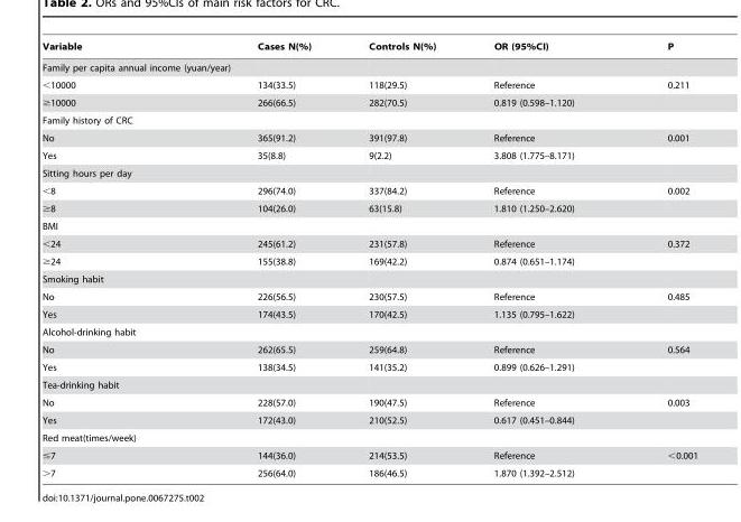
<table><thead><tr><td>Variable</td><td>Cases N(%)</td><td>Controls N(%)</td><td>OR (95%CI)</td><td>P</td></tr></thead><tbody><tr><td colspan="5">Family per capita annual income (yuan/year)</td></tr><tr><td>&lt;10000</td><td>134(33.5)</td><td>118(29.5)</td><td>Reference</td><td>0.211</td></tr><tr><td>≥10000</td><td>266(66.5)</td><td>282(70.5)</td><td>0.819 (0.598–1.120)</td><td></td></tr><tr><td colspan="5">Family history of CRC</td></tr><tr><td>No</td><td>365(91.2)</td><td>391(97.8)</td><td>Reference</td><td>0.001</td></tr><tr><td>Yes</td><td>35(8.8)</td><td>9(2.2)</td><td>3.808 (1.775–8.171)</td><td></td></tr><tr><td colspan="5">Sitting hours per day</td></tr><tr><td>&lt;8</td><td>296(74.0)</td><td>337(84.2)</td><td>Reference</td><td>0.002</td></tr><tr><td>≥8</td><td>104(26.0)</td><td>63(15.8)</td><td>1.810 (1.250–2.620)</td><td></td></tr><tr><td colspan="5">BMI</td></tr><tr><td>&lt;24</td><td>245(61.2)</td><td>231(57.8)</td><td>Reference</td><td>0.372</td></tr><tr><td>≥24</td><td>155(38.8)</td><td>169(42.2)</td><td>0.874 (0.651–1.174)</td><td></td></tr><tr><td colspan="5">Smoking habit</td></tr><tr><td>No</td><td>226(56.5)</td><td>230(57.5)</td><td>Reference</td><td>0.485</td></tr><tr><td>Yes</td><td>174(43.5)</td><td>170(42.5)</td><td>1.135 (0.795–1.622)</td><td></td></tr><tr><td colspan="5">Alcohol-drinking habit</td></tr><tr><td>No</td><td>262(65.5)</td><td>259(64.8)</td><td>Reference</td><td>0.564</td></tr><tr><td>Yes</td><td>138(34.5)</td><td>141(35.2)</td><td>0.899 (0.626–1.291)</td><td></td></tr><tr><td colspan="5">Tea-drinking habit</td></tr><tr><td>No</td><td>228(57.0)</td><td>190(47.5)</td><td>Reference</td><td>0.003</td></tr><tr><td>Yes</td><td>172(43.0)</td><td>210(52.5)</td><td>0.617 (0.451–0.844)</td><td></td></tr><tr><td colspan="5">Red meat(times/week)</td></tr><tr><td>≤7</td><td>144(36.0)</td><td>214(53.5)</td><td>Reference</td><td>&lt;0.001</td></tr><tr><td>&gt;7</td><td>256(64.0)</td><td>186(46.5)</td><td>1.870 (1.392–2.512)</td><td></td></tr></tbody></table>